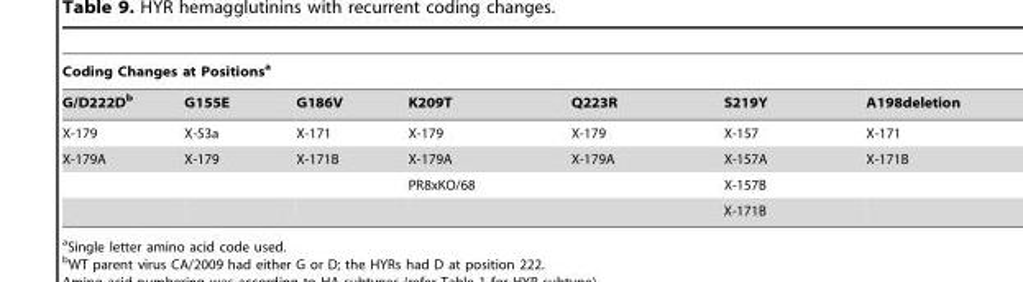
<table><thead><tr><td colspan="7">Coding Changes at Positions<sup>a</sup></td></tr><tr><td>G/D222D<sup>b</sup></td><td>G155E</td><td>G186V</td><td>K209T</td><td>Q223R</td><td>S219Y</td><td>A198deletion</td></tr></thead><tbody><tr><td>X-179</td><td>X-53a</td><td>X-171</td><td>X-179</td><td>X-179</td><td>X-157</td><td>X-171</td></tr><tr><td rowspan="3">X-179A</td><td>X-179</td><td>X-171B</td><td>X-179A</td><td>X-179A</td><td>X-157A</td><td>X-171B</td></tr><tr><td></td><td></td><td>PR8xKO/68</td><td></td><td>X-157B</td><td></td></tr><tr><td></td><td></td><td></td><td></td><td>X-171B</td><td></td></tr></tbody></table>